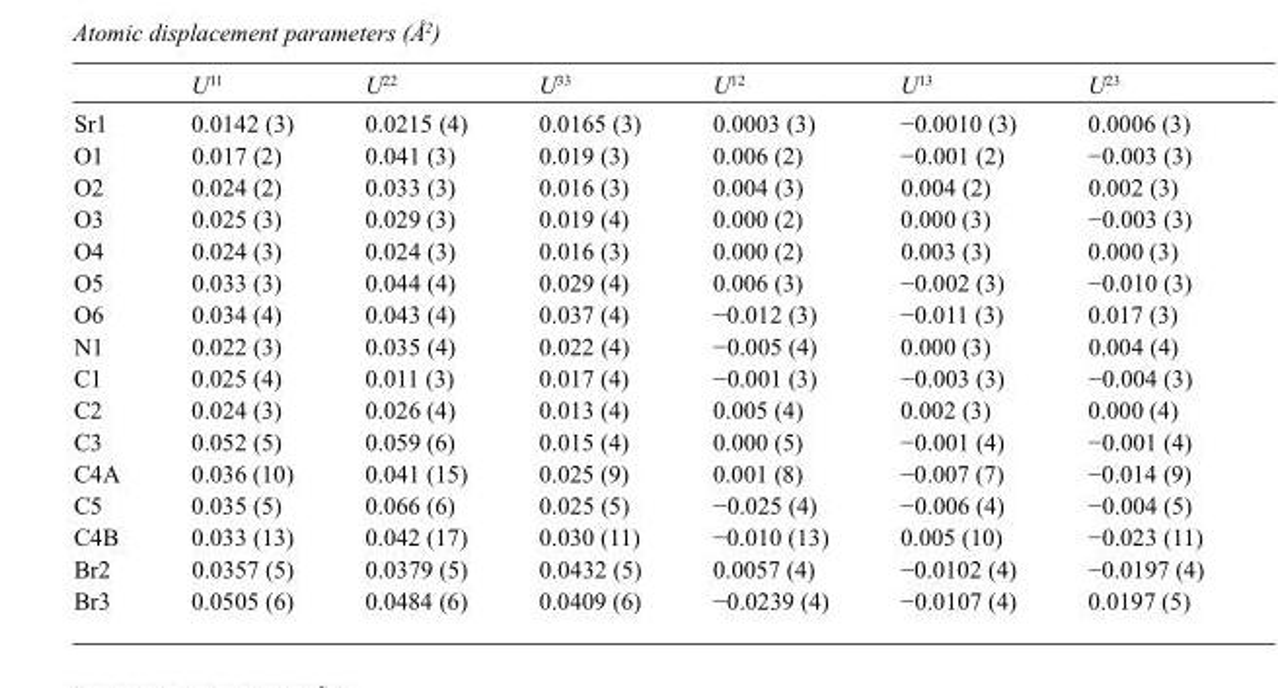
<table><thead><tr><td></td><td>U<sup>11</sup></td><td>U<sup>22</sup></td><td>U<sup>33</sup></td><td>U<sup>12</sup></td><td>U<sup>13</sup></td><td>U<sup>23</sup></td></tr></thead><tbody><tr><td>Sr1</td><td>0.0142 (3)</td><td>0.0215 (4)</td><td>0.0165 (3)</td><td>0.0003 (3)</td><td>−0.0010 (3)</td><td>0.0006 (3)</td></tr><tr><td>O1</td><td>0.017 (2)</td><td>0.041 (3)</td><td>0.019 (3)</td><td>0.006 (2)</td><td>−0.001 (2)</td><td>−0.003 (3)</td></tr><tr><td>O2</td><td>0.024 (2)</td><td>0.033 (3)</td><td>0.016 (3)</td><td>0.004 (3)</td><td>0.004 (2)</td><td>0.002 (3)</td></tr><tr><td>O3</td><td>0.025 (3)</td><td>0.029 (3)</td><td>0.019 (4)</td><td>0.000 (2)</td><td>0.000 (3)</td><td>−0.003 (3)</td></tr><tr><td>O4</td><td>0.024 (3)</td><td>0.024 (3)</td><td>0.016 (3)</td><td>0.000 (2)</td><td>0.003 (3)</td><td>0.000 (3)</td></tr><tr><td>O5</td><td>0.033 (3)</td><td>0.044 (4)</td><td>0.029 (4)</td><td>0.006 (3)</td><td>−0.002 (3)</td><td>−0.010 (3)</td></tr><tr><td>O6</td><td>0.034 (4)</td><td>0.043 (4)</td><td>0.037 (4)</td><td>−0.012 (3)</td><td>−0.011 (3)</td><td>0.017 (3)</td></tr><tr><td>N1</td><td>0.022 (3)</td><td>0.035 (4)</td><td>0.022 (4)</td><td>−0.005 (4)</td><td>0.000 (3)</td><td>0.004 (4)</td></tr><tr><td>C1</td><td>0.025 (4)</td><td>0.011 (3)</td><td>0.017 (4)</td><td>−0.001 (3)</td><td>−0.003 (3)</td><td>−0.004 (3)</td></tr><tr><td>C2</td><td>0.024 (3)</td><td>0.026 (4)</td><td>0.013 (4)</td><td>0.005 (4)</td><td>0.002 (3)</td><td>0.000 (4)</td></tr><tr><td>C3</td><td>0.052 (5)</td><td>0.059 (6)</td><td>0.015 (4)</td><td>0.000 (5)</td><td>−0.001 (4)</td><td>−0.001 (4)</td></tr><tr><td>C4A</td><td>0.036 (10)</td><td>0.041 (15)</td><td>0.025 (9)</td><td>0.001 (8)</td><td>−0.007 (7)</td><td>−0.014 (9)</td></tr><tr><td>C5</td><td>0.035 (5)</td><td>0.066 (6)</td><td>0.025 (5)</td><td>−0.025 (4)</td><td>−0.006 (4)</td><td>−0.004 (5)</td></tr><tr><td>C4B</td><td>0.033 (13)</td><td>0.042 (17)</td><td>0.030 (11)</td><td>−0.010 (13)</td><td>0.005 (10)</td><td>−0.023 (11)</td></tr><tr><td>Br2</td><td>0.0357 (5)</td><td>0.0379 (5)</td><td>0.0432 (5)</td><td>0.0057 (4)</td><td>−0.0102 (4)</td><td>−0.0197 (4)</td></tr><tr><td>Br3</td><td>0.0505 (6)</td><td>0.0484 (6)</td><td>0.0409 (6)</td><td>−0.0239 (4)</td><td>−0.0107 (4)</td><td>0.0197 (5)</td></tr></tbody></table>